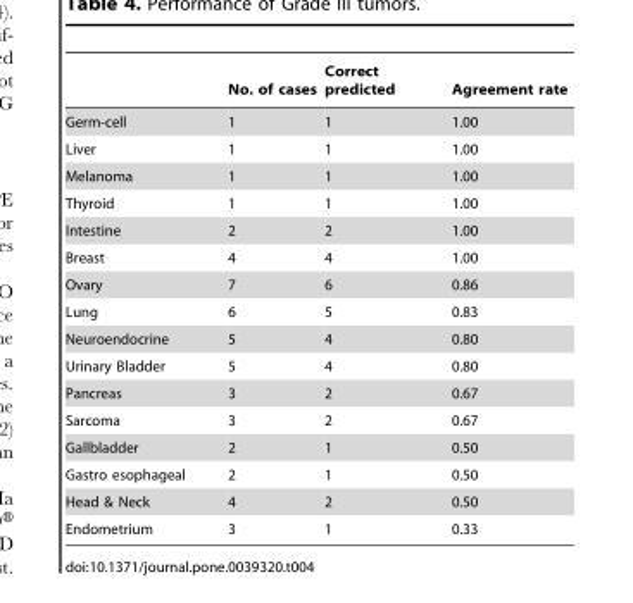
<table><thead><tr><td></td><td>No. of cases</td><td>Correct predicted</td><td>Agreement rate</td></tr></thead><tbody><tr><td>Germ-cell</td><td>1</td><td>1</td><td>1.00</td></tr><tr><td>Liver</td><td>1</td><td>1</td><td>1.00</td></tr><tr><td>Melanoma</td><td>1</td><td>1</td><td>1.00</td></tr><tr><td>Thyroid</td><td>1</td><td>1</td><td>1.00</td></tr><tr><td>Intestine</td><td>2</td><td>2</td><td>1.00</td></tr><tr><td>Breast</td><td>4</td><td>4</td><td>1.00</td></tr><tr><td>Ovary</td><td>7</td><td>6</td><td>0.86</td></tr><tr><td>Lung</td><td>6</td><td>5</td><td>0.83</td></tr><tr><td>Neuroendocrine</td><td>5</td><td>4</td><td>0.80</td></tr><tr><td>Urinary Bladder</td><td>5</td><td>4</td><td>0.80</td></tr><tr><td>Pancreas</td><td>3</td><td>2</td><td>0.67</td></tr><tr><td>Sarcoma</td><td>3</td><td>2</td><td>0.67</td></tr><tr><td>Gallbladder</td><td>2</td><td>1</td><td>0.50</td></tr><tr><td>Gastro esophageal</td><td>2</td><td>1</td><td>0.50</td></tr><tr><td>Head &amp; Neck</td><td>4</td><td>2</td><td>0.50</td></tr><tr><td>Endometrium</td><td>3</td><td>1</td><td>0.33</td></tr></tbody></table>